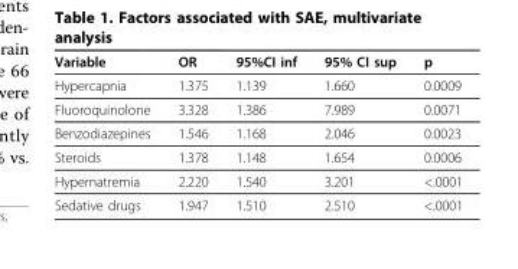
<table><thead><tr><td>Variable</td><td>OR</td><td>95%CI inf</td><td>95% CI sup</td><td>p</td></tr></thead><tbody><tr><td>Hypercapnia</td><td>1.375</td><td>1.139</td><td>1.660</td><td>0.0009</td></tr><tr><td>Fluoroquinolone</td><td>3.328</td><td>1.386</td><td>7.989</td><td>0.0071</td></tr><tr><td>Benzodiazepines</td><td>1.546</td><td>1.168</td><td>2.046</td><td>0.0023</td></tr><tr><td>Steroids</td><td>1.378</td><td>1.148</td><td>1.654</td><td>0.0006</td></tr><tr><td>Hypernatremia</td><td>2.220</td><td>1.540</td><td>3.201</td><td>&lt;.0001</td></tr><tr><td>Sedative drugs</td><td>1.947</td><td>1.510</td><td>2.510</td><td>&lt;.0001</td></tr></tbody></table>